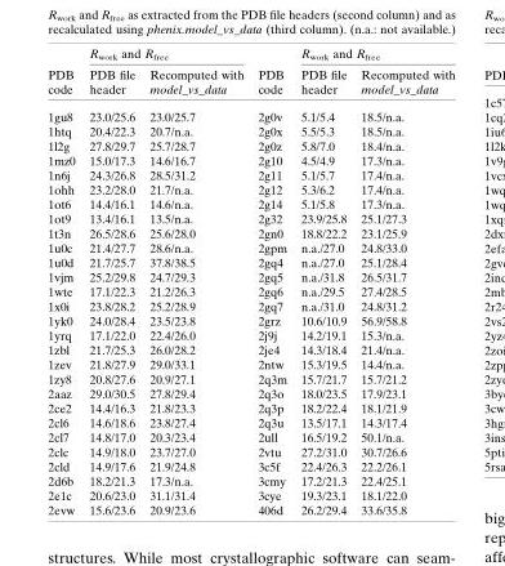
<table><thead><tr><td rowspan="2">PDB code</td><td colspan="2">R<sub>work</sub> and R<sub>free</sub></td><td rowspan="2">PDB code</td><td colspan="2">R<sub>work</sub> and R<sub>free</sub></td></tr><tr><td>PDB file header</td><td>Recomputed with model_vs_data</td><td>PDB file header</td><td>Recomputed with model_vs_data</td></tr></thead><tbody><tr><td>1gu8</td><td>23.0/25.6</td><td>23.0/25.7</td><td>2g0v</td><td>5.1/5.4</td><td>18.5/n.a.</td></tr><tr><td>1htq</td><td>20.4/22.3</td><td>20.7/n.a.</td><td>2g0x</td><td>5.5/5.3</td><td>18.5/n.a.</td></tr><tr><td>1l2g</td><td>27.8/29.7</td><td>25.7/28.7</td><td>2g0z</td><td>5.8/7.0</td><td>18.4/n.a.</td></tr><tr><td>1mz0</td><td>15.0/17.3</td><td>14.6/16.7</td><td>2g10</td><td>4.5/4.9</td><td>17.3/n.a.</td></tr><tr><td>1n6j</td><td>24.3/26.8</td><td>28.5/31.2</td><td>2g11</td><td>5.1/5.7</td><td>17.4/n.a.</td></tr><tr><td>1ohh</td><td>23.2/28.0</td><td>21.7/n.a.</td><td>2g12</td><td>5.3/6.2</td><td>17.4/n.a.</td></tr><tr><td>1ot6</td><td>14.4/16.1</td><td>14.6/n.a.</td><td>2g14</td><td>5.1/5.8</td><td>17.3/n.a.</td></tr><tr><td>1ot9</td><td>13.4/16.1</td><td>13.5/n.a.</td><td>2g32</td><td>23.9/25.8</td><td>25.1/27.3</td></tr><tr><td>1t3n</td><td>26.5/28.6</td><td>25.6/28.0</td><td>2gn0</td><td>18.8/22.2</td><td>23.1/25.9</td></tr><tr><td>1u0c</td><td>21.4/27.7</td><td>28.6/n.a.</td><td>2gpm</td><td>n.a./27.0</td><td>24.8/33.0</td></tr><tr><td>1u0d</td><td>21.7/25.7</td><td>37.8/38.5</td><td>2gq4</td><td>n.a./27.0</td><td>25.1/28.4</td></tr><tr><td>1vjm</td><td>25.2/29.8</td><td>24.7/29.3</td><td>2gq5</td><td>n.a./31.8</td><td>26.5/31.7</td></tr><tr><td>1wte</td><td>17.1/22.3</td><td>21.2/26.3</td><td>2gq6</td><td>n.a./29.5</td><td>27.4/28.5</td></tr><tr><td>1x0i</td><td>23.8/28.2</td><td>25.2/28.9</td><td>2gq7</td><td>n.a./31.0</td><td>24.8/31.2</td></tr><tr><td>1yk0</td><td>24.0/28.4</td><td>23.5/23.8</td><td>2grz</td><td>10.6/10.9</td><td>56.9/58.8</td></tr><tr><td>1yrq</td><td>17.1/22.0</td><td>22.4/26.0</td><td>2j9j</td><td>14.2/19.1</td><td>15.3/n.a.</td></tr><tr><td>1zbl</td><td>21.7/25.3</td><td>26.0/28.2</td><td>2je4</td><td>14.3/18.4</td><td>21.4/n.a.</td></tr><tr><td>1zev</td><td>21.8/27.9</td><td>29.0/33.1</td><td>2ntw</td><td>15.3/19.5</td><td>14.4/n.a.</td></tr><tr><td>1zy8</td><td>20.8/27.6</td><td>20.9/27.1</td><td>2q3m</td><td>15.7/21.7</td><td>15.7/21.2</td></tr><tr><td>2aaz</td><td>29.0/30.5</td><td>27.8/29.4</td><td>2q3o</td><td>18.0/23.5</td><td>17.9/23.1</td></tr><tr><td>2ce2</td><td>14.4/16.3</td><td>21.8/23.3</td><td>2q3p</td><td>18.2/22.4</td><td>18.1/21.9</td></tr><tr><td>2cl6</td><td>14.6/18.6</td><td>23.8/27.4</td><td>2q3u</td><td>13.5/17.1</td><td>14.3/17.4</td></tr><tr><td>2cl7</td><td>14.8/17.0</td><td>20.3/23.4</td><td>2ull</td><td>16.5/19.2</td><td>50.1/n.a.</td></tr><tr><td>2clc</td><td>14.9/18.0</td><td>23.7/27.0</td><td>2vtu</td><td>27.2/31.0</td><td>30.7/26.6</td></tr><tr><td>2cld</td><td>14.9/17.6</td><td>21.9/24.8</td><td>3c5f</td><td>22.4/26.3</td><td>22.2/26.1</td></tr><tr><td>2d6b</td><td>18.2/21.3</td><td>17.3/n.a.</td><td>3cmy</td><td>17.2/21.3</td><td>22.4/25.1</td></tr><tr><td>2e1c</td><td>20.6/23.0</td><td>31.1/31.4</td><td>3cye</td><td>19.3/23.1</td><td>18.1/22.0</td></tr><tr><td>2evw</td><td>15.6/23.6</td><td>20.9/23.6</td><td>406d</td><td>26.2/29.4</td><td>33.6/35.8</td></tr></tbody></table>